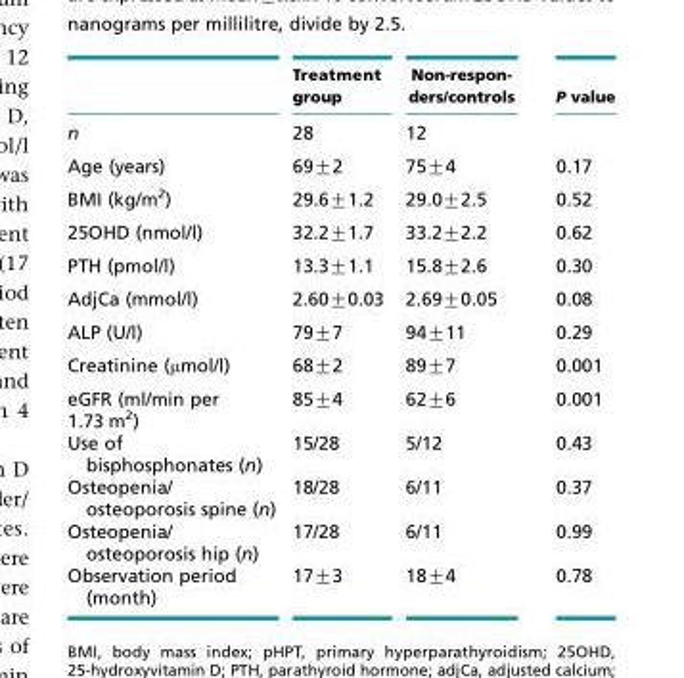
<table><thead><tr><td></td><td>Treatment group</td><td>Non-respon- ders/controls</td><td>P value</td></tr></thead><tbody><tr><td>n</td><td>28</td><td>12</td><td></td></tr><tr><td>Age (years)</td><td>69±2</td><td>75±4</td><td>0.17</td></tr><tr><td>BMI (kg/m<sup>2</sup>)</td><td>29.6±1.2</td><td>29.0±2.5</td><td>0.52</td></tr><tr><td>25OHD (nmol/l)</td><td>32.2±1.7</td><td>33.2±2.2</td><td>0.62</td></tr><tr><td>PTH (pmol/l)</td><td>13.3±1.1</td><td>15.8±2.6</td><td>0.30</td></tr><tr><td>AdjCa (mmol/l)</td><td>2.60±0.03</td><td>2.69±0.05</td><td>0.08</td></tr><tr><td>ALP (U/l)</td><td>79±7</td><td>94±11</td><td>0.29</td></tr><tr><td>Creatinine (μmol/l)</td><td>68±2</td><td>89±7</td><td>0.001</td></tr><tr><td>eGFR (ml/min per 1.73 m<sup>2</sup>)</td><td>85±4</td><td>62±6</td><td>0.001</td></tr><tr><td>Use of bisphosphonates (n)</td><td>15/28</td><td>5/12</td><td>0.43</td></tr><tr><td>Osteopenia/ osteoporosis spine (n)</td><td>18/28</td><td>6/11</td><td>0.37</td></tr><tr><td>Osteopenia/ osteoporosis hip (n)</td><td>17/28</td><td>6/11</td><td>0.99</td></tr><tr><td>Observation period (month)</td><td>17±3</td><td>18±4</td><td>0.78</td></tr></tbody></table>